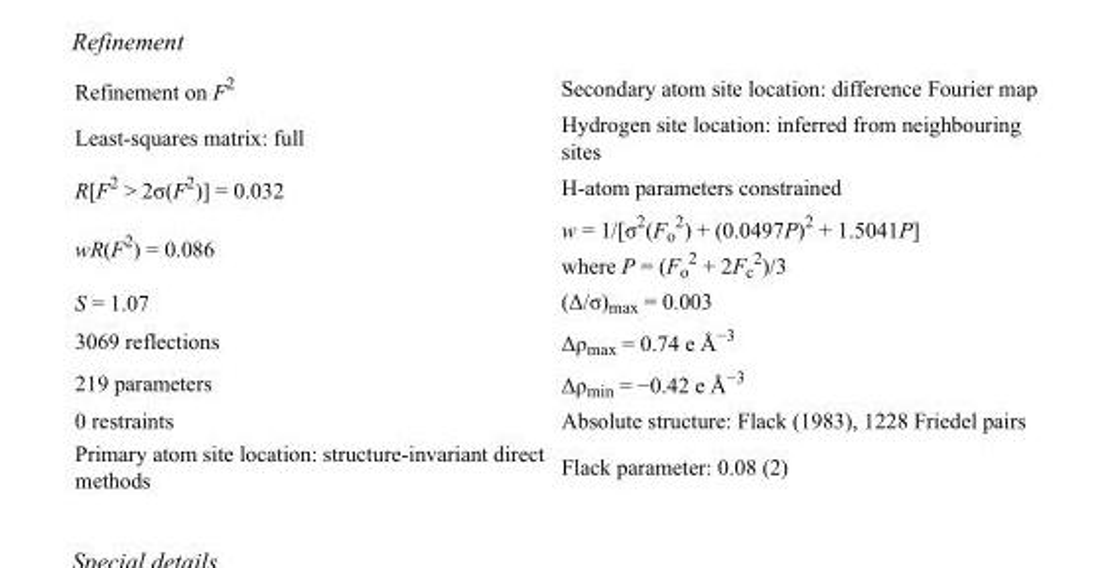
<table><tbody><tr><td>Refinement on F<sup>2</sup></td><td>Secondary atom site location: difference Fourier map</td></tr><tr><td>Least-squares matrix: full</td><td>Hydrogen site location: inferred from neighbouring sites</td></tr><tr><td>R[F<sup>2</sup> &gt; 2σ(F<sup>2</sup>)] = 0.032</td><td>H-atom parameters constrained</td></tr><tr><td>wR(F<sup>2</sup>) = 0.086</td><td>w = 1/[σ<sup>2</sup>(F<sub>o</sub> <sup>2</sup>) + (0.0497P)<sup>2</sup> + 1.5041P] where P = (F<sub>o</sub> <sup>2</sup> + 2F<sub>c</sub> <sup>2</sup>)/3</td></tr><tr><td>S = 1.07</td><td>(Δ/σ)<sub>max</sub> = 0.003</td></tr><tr><td>3069 reflections</td><td>Δρ<sub>max</sub> = 0.74 e Å<sup>−3</sup></td></tr><tr><td>219 parameters</td><td>Δρ<sub>min</sub> = −0.42 e Å<sup>−3</sup></td></tr><tr><td>0 restraints</td><td>Absolute structure: Flack (1983), 1228 Friedel pairs</td></tr><tr><td>Primary atom site location: structure-invariant direct methods</td><td>Flack parameter: 0.08 (2)</td></tr></tbody></table>